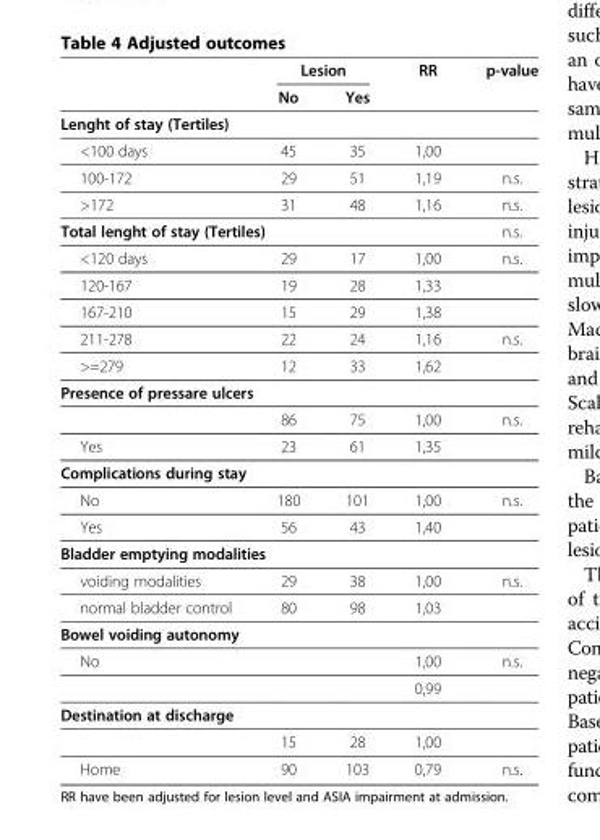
<table><thead><tr><td rowspan="2"></td><td colspan="2">Lesion</td><td rowspan="2">RR</td><td rowspan="2">p-value</td></tr><tr><td>No</td><td>Yes</td></tr></thead><tbody><tr><td colspan="5">Lenght of stay (Tertiles)</td></tr><tr><td>&lt;100 days</td><td>45</td><td>35</td><td>1,00</td><td></td></tr><tr><td>100-172</td><td>29</td><td>51</td><td>1,19</td><td>n.s.</td></tr><tr><td>&gt;172</td><td>31</td><td>48</td><td>1,16</td><td>n.s.</td></tr><tr><td colspan="4">Total lenght of stay (Tertiles)</td><td>n.s.</td></tr><tr><td>&lt;120 days</td><td>29</td><td>17</td><td>1,00</td><td>n.s.</td></tr><tr><td>120-167</td><td>19</td><td>28</td><td>1,33</td><td></td></tr><tr><td>167-210</td><td>15</td><td>29</td><td>1,38</td><td></td></tr><tr><td>211-278</td><td>22</td><td>24</td><td>1,16</td><td>n.s.</td></tr><tr><td>&gt;=279</td><td>12</td><td>33</td><td>1,62</td><td></td></tr><tr><td colspan="5">Presence of pressare ulcers</td></tr><tr><td></td><td>86</td><td>75</td><td>1,00</td><td>n.s.</td></tr><tr><td>Yes</td><td>23</td><td>61</td><td>1,35</td><td></td></tr><tr><td colspan="5">Complications during stay</td></tr><tr><td>No</td><td>180</td><td>101</td><td>1,00</td><td>n.s.</td></tr><tr><td>Yes</td><td>56</td><td>43</td><td>1,40</td><td></td></tr><tr><td colspan="5">Bladder emptying modalities</td></tr><tr><td>voiding modalities</td><td>29</td><td>38</td><td>1,00</td><td>n.s.</td></tr><tr><td>normal bladder control</td><td>80</td><td>98</td><td>1,03</td><td></td></tr><tr><td colspan="5">Bowel voiding autonomy</td></tr><tr><td rowspan="2">No</td><td></td><td></td><td>1,00</td><td>n.s.</td></tr><tr><td></td><td></td><td>0,99</td><td></td></tr><tr><td colspan="5">Destination at discharge</td></tr><tr><td></td><td>15</td><td>28</td><td>1,00</td><td></td></tr><tr><td>Home</td><td>90</td><td>103</td><td>0,79</td><td>n.s.</td></tr></tbody></table>